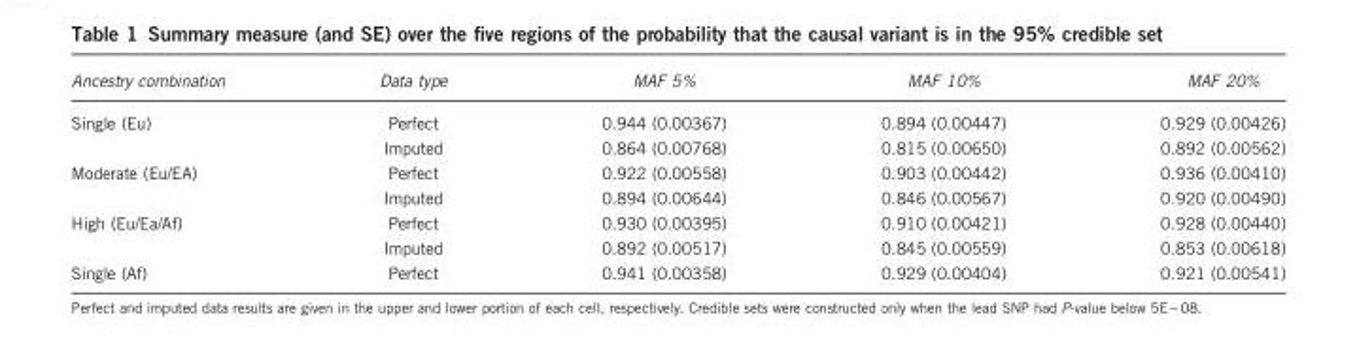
<table><thead><tr><td>Ancestry combination</td><td>Data type</td><td>MAF 5%</td><td>MAF 10%</td><td>MAF 20%</td></tr></thead><tbody><tr><td rowspan="2">Single (Eu)</td><td>Perfect</td><td>0.944 (0.00367)</td><td>0.894 (0.00447)</td><td>0.929 (0.00426)</td></tr><tr><td>Imputed</td><td>0.864 (0.00768)</td><td>0.815 (0.00650)</td><td>0.892 (0.00562)</td></tr><tr><td rowspan="2">Moderate (Eu/EA)</td><td>Perfect</td><td>0.922 (0.00558)</td><td>0.903 (0.00442)</td><td>0.936 (0.00410)</td></tr><tr><td>Imputed</td><td>0.894 (0.00644)</td><td>0.846 (0.00567)</td><td>0.920 (0.00490)</td></tr><tr><td rowspan="2">High (Eu/Ea/Af)</td><td>Perfect</td><td>0.930 (0.00395)</td><td>0.910 (0.00421)</td><td>0.928 (0.00440)</td></tr><tr><td>Imputed</td><td>0.892 (0.00517)</td><td>0.845 (0.00559)</td><td>0.853 (0.00618)</td></tr><tr><td>Single (Af)</td><td>Perfect</td><td>0.941 (0.00358)</td><td>0.929 (0.00404)</td><td>0.921 (0.00541)</td></tr></tbody></table>